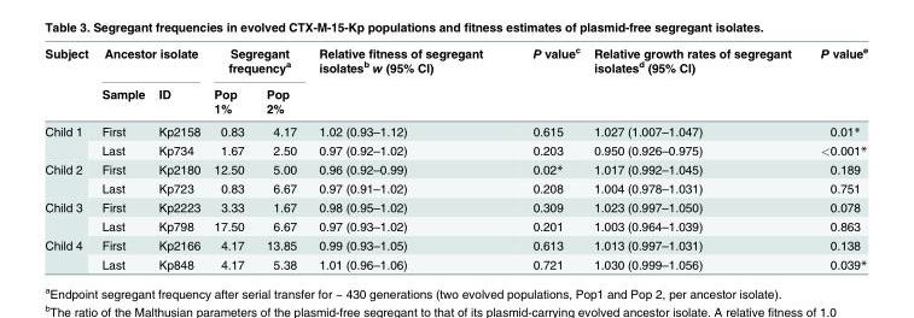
<table><thead><tr><td rowspan="2">Subject</td><td colspan="2">Ancestor isolate</td><td colspan="2">Segregant frequency<sup>a</sup></td><td rowspan="2">Relative fitness of segregant isolates<sup>b</sup> w (95% CI)</td><td rowspan="2">P value<sup>c</sup></td><td rowspan="2">Relative growth rates of segregant isolates<sup>d</sup> (95% CI)</td><td rowspan="2">P value<sup>e</sup></td></tr><tr><td>Sample</td><td>ID</td><td>Pop 1%</td><td>Pop 2%</td></tr></thead><tbody><tr><td rowspan="2">Child 1</td><td>First</td><td>Kp2158</td><td>0.83</td><td>4.17</td><td>1.02 (0.93–1.12)</td><td>0.615</td><td>1.027 (1.007–1.047)</td><td>0.01*</td></tr><tr><td>Last</td><td>Kp734</td><td>1.67</td><td>2.50</td><td>0.97 (0.92–1.02)</td><td>0.203</td><td>0.950 (0.926–0.975)</td><td>&lt;0.001*</td></tr><tr><td rowspan="2">Child 2</td><td>First</td><td>Kp2180</td><td>12.50</td><td>5.00</td><td>0.96 (0.92–0.99)</td><td>0.02*</td><td>1.017 (0.992–1.045)</td><td>0.189</td></tr><tr><td>Last</td><td>Kp723</td><td>0.83</td><td>6.67</td><td>0.97 (0.91–1.02)</td><td>0.208</td><td>1.004 (0.978–1.031)</td><td>0.751</td></tr><tr><td rowspan="2">Child 3</td><td>First</td><td>Kp2223</td><td>3.33</td><td>1.67</td><td>0.98 (0.95–1.02)</td><td>0.309</td><td>1.023 (0.997–1.050)</td><td>0.078</td></tr><tr><td>Last</td><td>Kp798</td><td>17.50</td><td>6.67</td><td>0.97 (0.93–1.02)</td><td>0.201</td><td>1.003 (0.964–1.039)</td><td>0.863</td></tr><tr><td rowspan="2">Child 4</td><td>First</td><td>Kp2166</td><td>4.17</td><td>13.85</td><td>0.99 (0.93–1.05)</td><td>0.613</td><td>1.013 (0.997–1.031)</td><td>0.138</td></tr><tr><td>Last</td><td>Kp848</td><td>4.17</td><td>5.38</td><td>1.01 (0.96–1.06)</td><td>0.721</td><td>1.030 (0.999–1.056)</td><td>0.039*</td></tr></tbody></table>